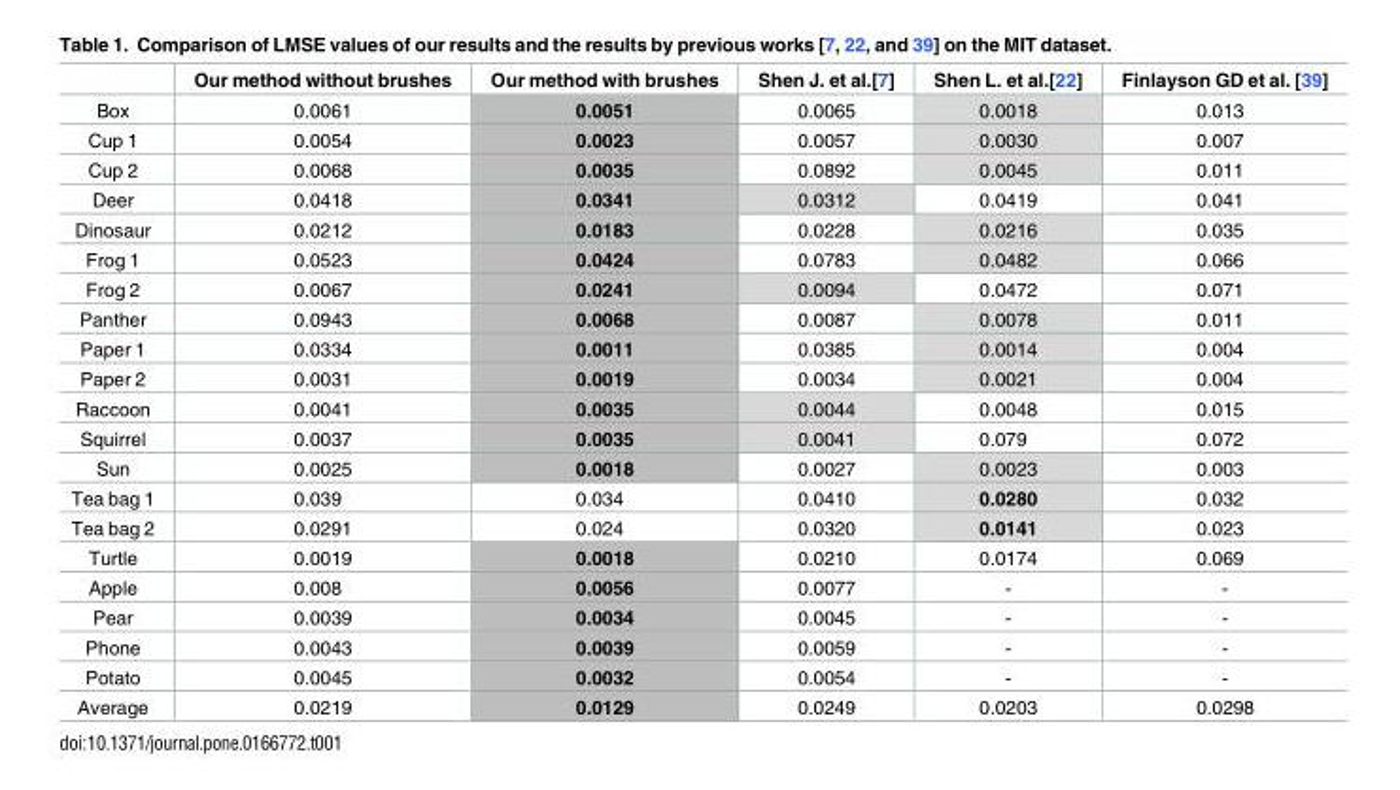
<table><thead><tr><td></td><td>Our method without brushes</td><td>Our method with brushes</td><td>Shen J. et al.[7]</td><td>Shen L. et al.[22]</td><td>Finlayson GD et al. [39]</td></tr></thead><tbody><tr><td>Box</td><td>0.0061</td><td>0.0051</td><td>0.0065</td><td>0.0018</td><td>0.013</td></tr><tr><td>Cup 1</td><td>0.0054</td><td>0.0023</td><td>0.0057</td><td>0.0030</td><td>0.007</td></tr><tr><td>Cup 2</td><td>0.0068</td><td>0.0035</td><td>0.0892</td><td>0.0045</td><td>0.011</td></tr><tr><td>Deer</td><td>0.0418</td><td>0.0341</td><td>0.0312</td><td>0.0419</td><td>0.041</td></tr><tr><td>Dinosaur</td><td>0.0212</td><td>0.0183</td><td>0.0228</td><td>0.0216</td><td>0.035</td></tr><tr><td>Frog 1</td><td>0.0523</td><td>0.0424</td><td>0.0783</td><td>0.0482</td><td>0.066</td></tr><tr><td>Frog 2</td><td>0.0067</td><td>0.0241</td><td>0.0094</td><td>0.0472</td><td>0.071</td></tr><tr><td>Panther</td><td>0.0943</td><td>0.0068</td><td>0.0087</td><td>0.0078</td><td>0.011</td></tr><tr><td>Paper 1</td><td>0.0334</td><td>0.0011</td><td>0.0385</td><td>0.0014</td><td>0.004</td></tr><tr><td>Paper 2</td><td>0.0031</td><td>0.0019</td><td>0.0034</td><td>0.0021</td><td>0.004</td></tr><tr><td>Raccoon</td><td>0.0041</td><td>0.0035</td><td>0.0044</td><td>0.0048</td><td>0.015</td></tr><tr><td>Squirrel</td><td>0.0037</td><td>0.0035</td><td>0.0041</td><td>0.079</td><td>0.072</td></tr><tr><td>Sun</td><td>0.0025</td><td>0.0018</td><td>0.0027</td><td>0.0023</td><td>0.003</td></tr><tr><td>Tea bag 1</td><td>0.039</td><td>0.034</td><td>0.0410</td><td>0.0280</td><td>0.032</td></tr><tr><td>Tea bag 2</td><td>0.0291</td><td>0.024</td><td>0.0320</td><td>0.0141</td><td>0.023</td></tr><tr><td>Turtle</td><td>0.0019</td><td>0.0018</td><td>0.0210</td><td>0.0174</td><td>0.069</td></tr><tr><td>Apple</td><td>0.008</td><td>0.0056</td><td>0.0077</td><td>-</td><td>-</td></tr><tr><td>Pear</td><td>0.0039</td><td>0.0034</td><td>0.0045</td><td>-</td><td>-</td></tr><tr><td>Phone</td><td>0.0043</td><td>0.0039</td><td>0.0059</td><td>-</td><td>-</td></tr><tr><td>Potato</td><td>0.0045</td><td>0.0032</td><td>0.0054</td><td>-</td><td>-</td></tr><tr><td>Average</td><td>0.0219</td><td>0.0129</td><td>0.0249</td><td>0.0203</td><td>0.0298</td></tr></tbody></table>